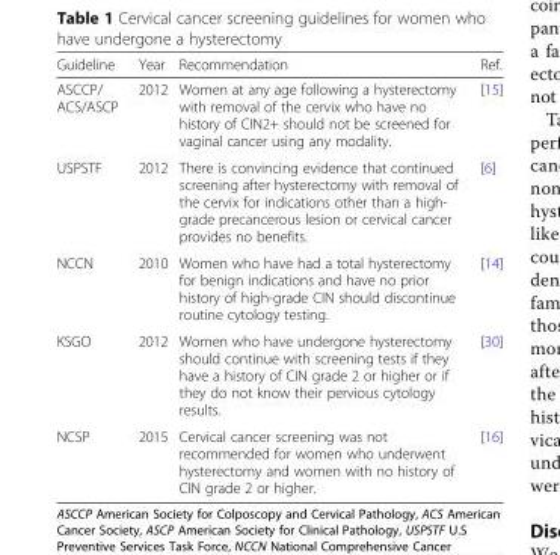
<table><thead><tr><td>Guideline</td><td>Year</td><td>Recommendation</td><td>Ref.</td></tr></thead><tbody><tr><td>ASCCP/ ACS/ASCP</td><td>2012</td><td>Women at any age following a hysterectomy with removal of the cervix who have no history of CIN2+ should not be screened for vaginal cancer using any modality.</td><td>[15]</td></tr><tr><td>USPSTF</td><td>2012</td><td>There is convincing evidence that continued screening after hysterectomy with removal of the cervix for indications other than a high- grade precancerous lesion or cervical cancer provides no benefits.</td><td>[6]</td></tr><tr><td>NCCN</td><td>2010</td><td>Women who have had a total hysterectomy for benign indications and have no prior history of high-grade CIN should discontinue routine cytology testing.</td><td>[14]</td></tr><tr><td>KSGO</td><td>2012</td><td>Women who have undergone hysterectomy should continue with screening tests if they have a history of CIN grade 2 or higher or if they do not know their pervious cytology results.</td><td>[30]</td></tr><tr><td>NCSP</td><td>2015</td><td>Cervical cancer screening was not recommended for women who underwent hysterectomy and women with no history of CIN grade 2 or higher.</td><td>[16]</td></tr></tbody></table>